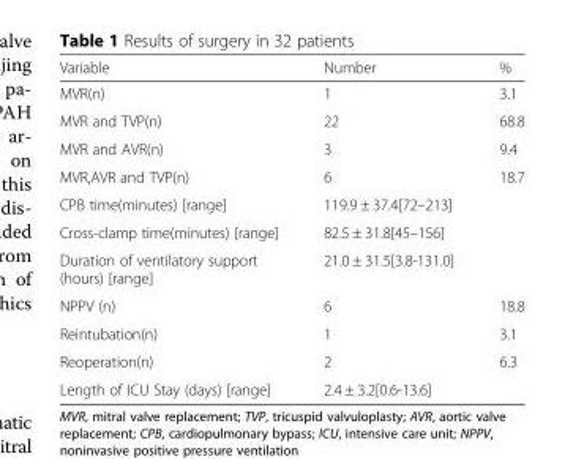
<table><thead><tr><td>Variable</td><td>Number</td><td>%</td></tr></thead><tbody><tr><td>MVR(n)</td><td>1</td><td>3.1</td></tr><tr><td>MVR and TVP(n)</td><td>22</td><td>68.8</td></tr><tr><td>MVR and AVR(n)</td><td>3</td><td>9.4</td></tr><tr><td>MVR,AVR and TVP(n)</td><td>6</td><td>18.7</td></tr><tr><td>CPB time(minutes) [range]</td><td>119.9 ± 37.4[72–213]</td><td></td></tr><tr><td>Cross-clamp time(minutes) [range]</td><td>82.5 ± 31.8[45–156]</td><td></td></tr><tr><td>Duration of ventilatory support (hours) [range]</td><td>21.0 ± 31.5[3.8-131.0]</td><td></td></tr><tr><td>NPPV (n)</td><td>6</td><td>18.8</td></tr><tr><td>Reintubation(n)</td><td>1</td><td>3.1</td></tr><tr><td>Reoperation(n)</td><td>2</td><td>6.3</td></tr><tr><td>Length of ICU Stay (days) [range]</td><td>2.4 ± 3.2[0.6-13.6]</td><td></td></tr></tbody></table>